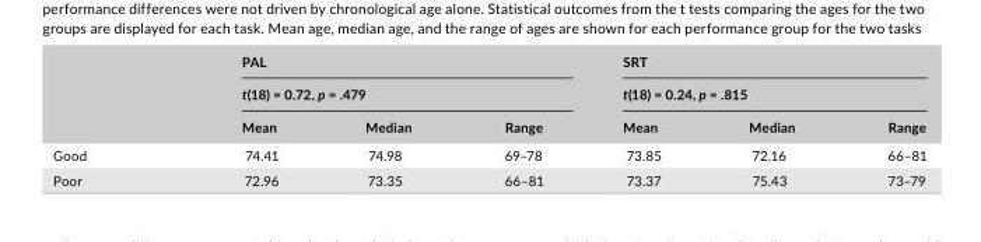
<table><thead><tr><td rowspan="3"></td><td rowspan="2" colspan="3">PAL t(18) = 0.72, p = .479</td><td rowspan="2" colspan="3">SRT t(18) = 0.24, p = .815</td></tr><tr></tr><tr><td>Mean</td><td>Median</td><td>Range</td><td>Mean</td><td>Median</td><td>Range</td></tr></thead><tbody><tr><td>Good</td><td>74.41</td><td>74.98</td><td>69–78</td><td>73.85</td><td>72.16</td><td>66–81</td></tr><tr><td>Poor</td><td>72.96</td><td>73.35</td><td>66–81</td><td>73.37</td><td>75.43</td><td>73–79</td></tr></tbody></table>